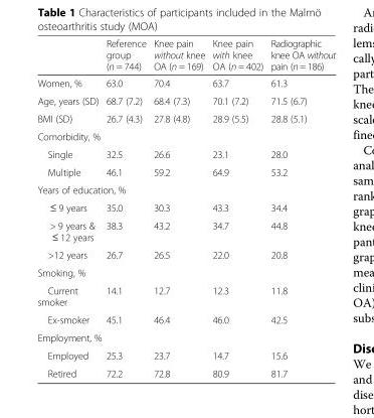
<table><thead><tr><td></td><td>Reference group (n = 744)</td><td>Knee pain without knee OA (n = 169)</td><td>Knee pain with knee OA (n = 402)</td><td>Radiographic knee OA without pain (n = 186)</td></tr></thead><tbody><tr><td>Women, %</td><td>63.0</td><td>70.4</td><td>63.7</td><td>61.3</td></tr><tr><td>Age, years (SD)</td><td>68.7 (7.2)</td><td>68.4 (7.3)</td><td>70.1 (7.2)</td><td>71.5 (6.7)</td></tr><tr><td>BMI (SD)</td><td>26.7 (4.3)</td><td>27.8 (4.8)</td><td>28.9 (5.5)</td><td>28.8 (5.1)</td></tr><tr><td colspan="5">Comorbidity, %</td></tr><tr><td>Single</td><td>32.5</td><td>26.6</td><td>23.1</td><td>28.0</td></tr><tr><td>Multiple</td><td>46.1</td><td>59.2</td><td>64.9</td><td>53.2</td></tr><tr><td colspan="5">Years of education, %</td></tr><tr><td>≤ 9 years</td><td>35.0</td><td>30.3</td><td>43.3</td><td>34.4</td></tr><tr><td>&gt; 9 years &amp; ≤ 12 years</td><td>38.3</td><td>43.2</td><td>34.7</td><td>44.8</td></tr><tr><td>&gt;12 years</td><td>26.7</td><td>26.5</td><td>22.0</td><td>20.8</td></tr><tr><td colspan="5">Smoking, %</td></tr><tr><td>Current smoker</td><td>14.1</td><td>12.7</td><td>12.3</td><td>11.8</td></tr><tr><td>Ex-smoker</td><td>45.1</td><td>46.4</td><td>46.0</td><td>42.5</td></tr><tr><td colspan="5">Employment, %</td></tr><tr><td>Employed</td><td>25.3</td><td>23.7</td><td>14.7</td><td>15.6</td></tr><tr><td>Retired</td><td>72.2</td><td>72.8</td><td>80.9</td><td>81.7</td></tr></tbody></table>